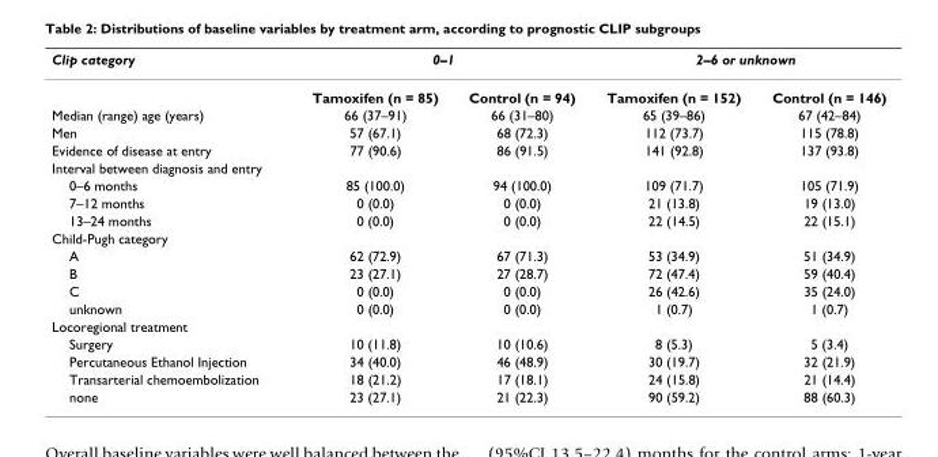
<table><thead><tr><td rowspan="2">Clip category</td><td colspan="2">0–1</td><td colspan="2">2–6 or unknown</td></tr><tr><td>Tamoxifen (n = 85)</td><td>Control (n = 94)</td><td>Tamoxifen (n = 152)</td><td>Control (n = 146)</td></tr></thead><tbody><tr><td>Median (range) age (years)</td><td>66 (37–91)</td><td>66 (31–80)</td><td>65 (39–86)</td><td>67 (42–84)</td></tr><tr><td>Men</td><td>57 (67.1)</td><td>68 (72.3)</td><td>112 (73.7)</td><td>115 (78.8)</td></tr><tr><td>Evidence of disease at entry</td><td>77 (90.6)</td><td>86 (91.5)</td><td>141 (92.8)</td><td>137 (93.8)</td></tr><tr><td colspan="5">Interval between diagnosis and entry</td></tr><tr><td>0–6 months</td><td>85 (100.0)</td><td>94 (100.0)</td><td>109 (71.7)</td><td>105 (71.9)</td></tr><tr><td>7–12 months</td><td>0 (0.0)</td><td>0 (0.0)</td><td>21 (13.8)</td><td>19 (13.0)</td></tr><tr><td>13–24 months</td><td>0 (0.0)</td><td>0 (0.0)</td><td>22 (14.5)</td><td>22 (15.1)</td></tr><tr><td colspan="5">Child-Pugh category</td></tr><tr><td>A</td><td>62 (72.9)</td><td>67 (71.3)</td><td>53 (34.9)</td><td>51 (34.9)</td></tr><tr><td>B</td><td>23 (27.1)</td><td>27 (28.7)</td><td>72 (47.4)</td><td>59 (40.4)</td></tr><tr><td>C</td><td>0 (0.0)</td><td>0 (0.0)</td><td>26 (42.6)</td><td>35 (24.0)</td></tr><tr><td>unknown</td><td>0 (0.0)</td><td>0 (0.0)</td><td>1 (0.7)</td><td>1 (0.7)</td></tr><tr><td colspan="5">Locoregional treatment</td></tr><tr><td>Surgery</td><td>10 (11.8)</td><td>10 (10.6)</td><td>8 (5.3)</td><td>5 (3.4)</td></tr><tr><td>Percutaneous Ethanol Injection</td><td>34 (40.0)</td><td>46 (48.9)</td><td>30 (19.7)</td><td>32 (21.9)</td></tr><tr><td>Transarterial chemoembolization</td><td>18 (21.2)</td><td>17 (18.1)</td><td>24 (15.8)</td><td>21 (14.4)</td></tr><tr><td>none</td><td>23 (27.1)</td><td>21 (22.3)</td><td>90 (59.2)</td><td>88 (60.3)</td></tr></tbody></table>